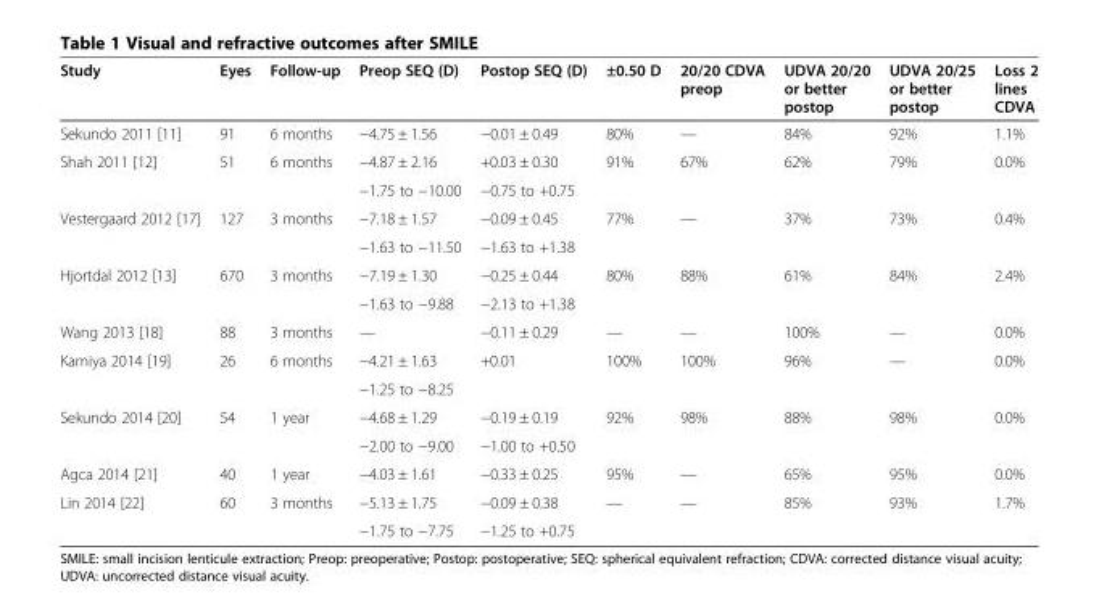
<table><thead><tr><td>Study</td><td>Eyes</td><td>Follow-up</td><td>Preop SEQ (D)</td><td>Postop SEQ (D)</td><td>±0.50 D</td><td>20/20 CDVA preop</td><td>UDVA 20/20 or better postop</td><td>UDVA 20/25 or better postop</td><td>Loss 2 lines CDVA</td></tr></thead><tbody><tr><td>Sekundo 2011 [11]</td><td>91</td><td>6 months</td><td>−4.75 ± 1.56</td><td>−0.01 ± 0.49</td><td>80%</td><td>—</td><td>84%</td><td>92%</td><td>1.1%</td></tr><tr><td rowspan="2">Shah 2011 [12]</td><td rowspan="2">51</td><td rowspan="2">6 months</td><td>−4.87 ± 2.16</td><td>+0.03 ± 0.30</td><td rowspan="2">91%</td><td rowspan="2">67%</td><td rowspan="2">62%</td><td rowspan="2">79%</td><td rowspan="2">0.0%</td></tr><tr><td>−1.75 to −10.00</td><td>−0.75 to +0.75</td></tr><tr><td rowspan="2">Vestergaard 2012 [17]</td><td rowspan="2">127</td><td rowspan="2">3 months</td><td>−7.18 ± 1.57</td><td>−0.09 ± 0.45</td><td rowspan="2">77%</td><td rowspan="2">—</td><td rowspan="2">37%</td><td rowspan="2">73%</td><td rowspan="2">0.4%</td></tr><tr><td>−1.63 to −11.50</td><td>−1.63 to +1.38</td></tr><tr><td rowspan="2">Hjortdal 2012 [13]</td><td rowspan="2">670</td><td rowspan="2">3 months</td><td>−7.19 ± 1.30</td><td>−0.25 ± 0.44</td><td rowspan="2">80%</td><td rowspan="2">88%</td><td rowspan="2">61%</td><td rowspan="2">84%</td><td rowspan="2">2.4%</td></tr><tr><td>−1.63 to −9.88</td><td>−2.13 to +1.38</td></tr><tr><td>Wang 2013 [18]</td><td>88</td><td>3 months</td><td>—</td><td>−0.11 ± 0.29</td><td>—</td><td>—</td><td>100%</td><td>—</td><td>0.0%</td></tr><tr><td rowspan="2">Kamiya 2014 [19]</td><td rowspan="2">26</td><td rowspan="2">6 months</td><td>−4.21 ± 1.63</td><td>+0.01</td><td rowspan="2">100%</td><td rowspan="2">100%</td><td rowspan="2">96%</td><td rowspan="2">—</td><td rowspan="2">0.0%</td></tr><tr><td>−1.25 to −8.25</td><td></td></tr><tr><td rowspan="2">Sekundo 2014 [20]</td><td rowspan="2">54</td><td rowspan="2">1 year</td><td>−4.68 ± 1.29</td><td>−0.19 ± 0.19</td><td rowspan="2">92%</td><td rowspan="2">98%</td><td rowspan="2">88%</td><td rowspan="2">98%</td><td rowspan="2">0.0%</td></tr><tr><td>−2.00 to −9.00</td><td>−1.00 to +0.50</td></tr><tr><td>Agca 2014 [21]</td><td>40</td><td>1 year</td><td>−4.03 ± 1.61</td><td>−0.33 ± 0.25</td><td>95%</td><td>—</td><td>65%</td><td>95%</td><td>0.0%</td></tr><tr><td rowspan="2">Lin 2014 [22]</td><td rowspan="2">60</td><td rowspan="2">3 months</td><td>−5.13 ± 1.75</td><td>−0.09 ± 0.38</td><td rowspan="2">—</td><td rowspan="2">—</td><td rowspan="2">85%</td><td rowspan="2">93%</td><td rowspan="2">1.7%</td></tr><tr><td>−1.75 to −7.75</td><td>−1.25 to +0.75</td></tr></tbody></table>